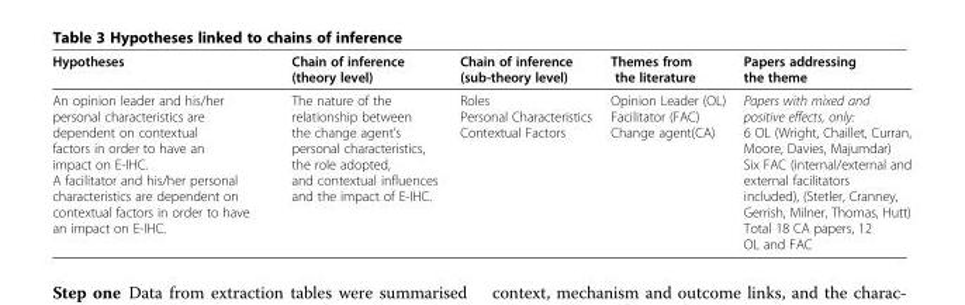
<table><thead><tr><td>Hypotheses</td><td>Chain of inference (theory level)</td><td>Chain of inference (sub-theory level)</td><td>Themes from the literature</td><td>Papers addressing the theme</td></tr></thead><tbody><tr><td>An opinion leader and his/her personal characteristics are dependent on contextual factors in order to have an impact on E-IHC. A facilitator and his/her personal characteristics are dependent on contextual factors in order to have an impact on E-IHC.</td><td>The nature of the relationship between the change agent’s personal characteristics, the role adopted, and contextual influences and the impact of E-IHC.</td><td>Roles Personal Characteristics Contextual Factors</td><td>Opinion Leader (OL) Facilitator (FAC) Change agent(CA)</td><td>Papers with mixed and positive effects, only: 6 OL (Wright, Chaillet, Curran, Moore, Davies, Majumdar) Six FAC (internal/external and external facilitators included), (Stetler, Cranney, Gerrish, Milner, Thomas, Hutt) Total 18 CA papers, 12 OL and FAC</td></tr></tbody></table>